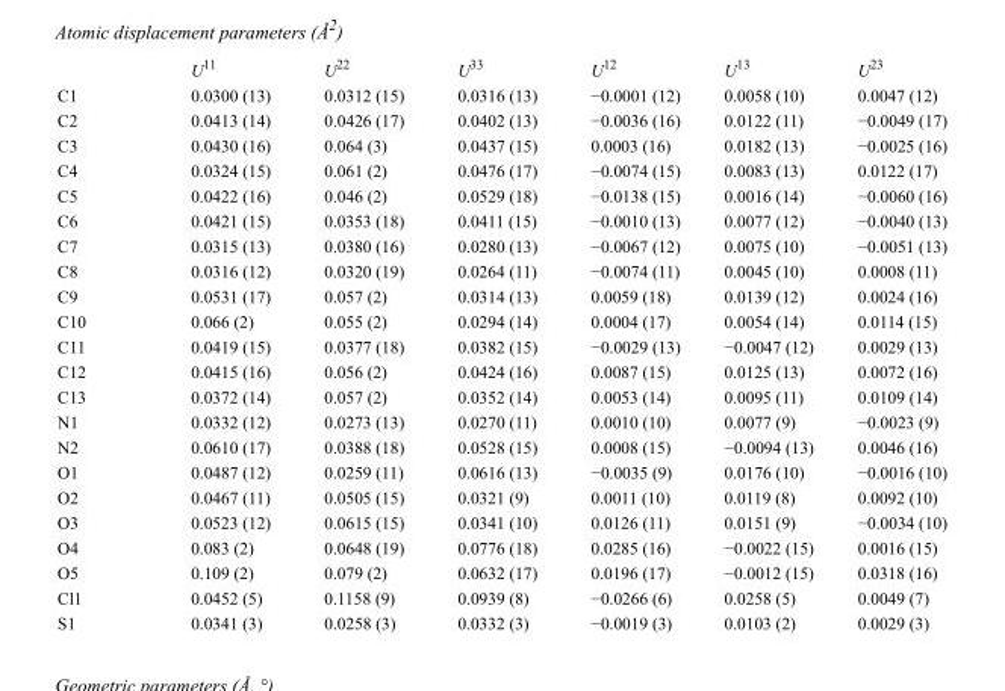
<table><thead><tr><td></td><td>U<sup>11</sup></td><td>U<sup>22</sup></td><td>U<sup>33</sup></td><td>U<sup>12</sup></td><td>U<sup>13</sup></td><td>U<sup>23</sup></td></tr></thead><tbody><tr><td>C1</td><td>0.0300 (13)</td><td>0.0312 (15)</td><td>0.0316 (13)</td><td>−0.0001 (12)</td><td>0.0058 (10)</td><td>0.0047 (12)</td></tr><tr><td>C2</td><td>0.0413 (14)</td><td>0.0426 (17)</td><td>0.0402 (13)</td><td>−0.0036 (16)</td><td>0.0122 (11)</td><td>−0.0049 (17)</td></tr><tr><td>C3</td><td>0.0430 (16)</td><td>0.064 (3)</td><td>0.0437 (15)</td><td>0.0003 (16)</td><td>0.0182 (13)</td><td>−0.0025 (16)</td></tr><tr><td>C4</td><td>0.0324 (15)</td><td>0.061 (2)</td><td>0.0476 (17)</td><td>−0.0074 (15)</td><td>0.0083 (13)</td><td>0.0122 (17)</td></tr><tr><td>C5</td><td>0.0422 (16)</td><td>0.046 (2)</td><td>0.0529 (18)</td><td>−0.0138 (15)</td><td>0.0016 (14)</td><td>−0.0060 (16)</td></tr><tr><td>C6</td><td>0.0421 (15)</td><td>0.0353 (18)</td><td>0.0411 (15)</td><td>−0.0010 (13)</td><td>0.0077 (12)</td><td>−0.0040 (13)</td></tr><tr><td>C7</td><td>0.0315 (13)</td><td>0.0380 (16)</td><td>0.0280 (13)</td><td>−0.0067 (12)</td><td>0.0075 (10)</td><td>−0.0051 (13)</td></tr><tr><td>C8</td><td>0.0316 (12)</td><td>0.0320 (19)</td><td>0.0264 (11)</td><td>−0.0074 (11)</td><td>0.0045 (10)</td><td>0.0008 (11)</td></tr><tr><td>C9</td><td>0.0531 (17)</td><td>0.057 (2)</td><td>0.0314 (13)</td><td>0.0059 (18)</td><td>0.0139 (12)</td><td>0.0024 (16)</td></tr><tr><td>C10</td><td>0.066 (2)</td><td>0.055 (2)</td><td>0.0294 (14)</td><td>0.0004 (17)</td><td>0.0054 (14)</td><td>0.0114 (15)</td></tr><tr><td>C11</td><td>0.0419 (15)</td><td>0.0377 (18)</td><td>0.0382 (15)</td><td>−0.0029 (13)</td><td>−0.0047 (12)</td><td>0.0029 (13)</td></tr><tr><td>C12</td><td>0.0415 (16)</td><td>0.056 (2)</td><td>0.0424 (16)</td><td>0.0087 (15)</td><td>0.0125 (13)</td><td>0.0072 (16)</td></tr><tr><td>C13</td><td>0.0372 (14)</td><td>0.057 (2)</td><td>0.0352 (14)</td><td>0.0053 (14)</td><td>0.0095 (11)</td><td>0.0109 (14)</td></tr><tr><td>N1</td><td>0.0332 (12)</td><td>0.0273 (13)</td><td>0.0270 (11)</td><td>0.0010 (10)</td><td>0.0077 (9)</td><td>−0.0023 (9)</td></tr><tr><td>N2</td><td>0.0610 (17)</td><td>0.0388 (18)</td><td>0.0528 (15)</td><td>0.0008 (15)</td><td>−0.0094 (13)</td><td>0.0046 (16)</td></tr><tr><td>O1</td><td>0.0487 (12)</td><td>0.0259 (11)</td><td>0.0616 (13)</td><td>−0.0035 (9)</td><td>0.0176 (10)</td><td>−0.0016 (10)</td></tr><tr><td>O2</td><td>0.0467 (11)</td><td>0.0505 (15)</td><td>0.0321 (9)</td><td>0.0011 (10)</td><td>0.0119 (8)</td><td>0.0092 (10)</td></tr><tr><td>O3</td><td>0.0523 (12)</td><td>0.0615 (15)</td><td>0.0341 (10)</td><td>0.0126 (11)</td><td>0.0151 (9)</td><td>−0.0034 (10)</td></tr><tr><td>O4</td><td>0.083 (2)</td><td>0.0648 (19)</td><td>0.0776 (18)</td><td>0.0285 (16)</td><td>−0.0022 (15)</td><td>0.0016 (15)</td></tr><tr><td>O5</td><td>0.109 (2)</td><td>0.079 (2)</td><td>0.0632 (17)</td><td>0.0196 (17)</td><td>−0.0012 (15)</td><td>0.0318 (16)</td></tr><tr><td>Cl1</td><td>0.0452 (5)</td><td>0.1158 (9)</td><td>0.0939 (8)</td><td>−0.0266 (6)</td><td>0.0258 (5)</td><td>0.0049 (7)</td></tr><tr><td>S1</td><td>0.0341 (3)</td><td>0.0258 (3)</td><td>0.0332 (3)</td><td>−0.0019 (3)</td><td>0.0103 (2)</td><td>0.0029 (3)</td></tr></tbody></table>